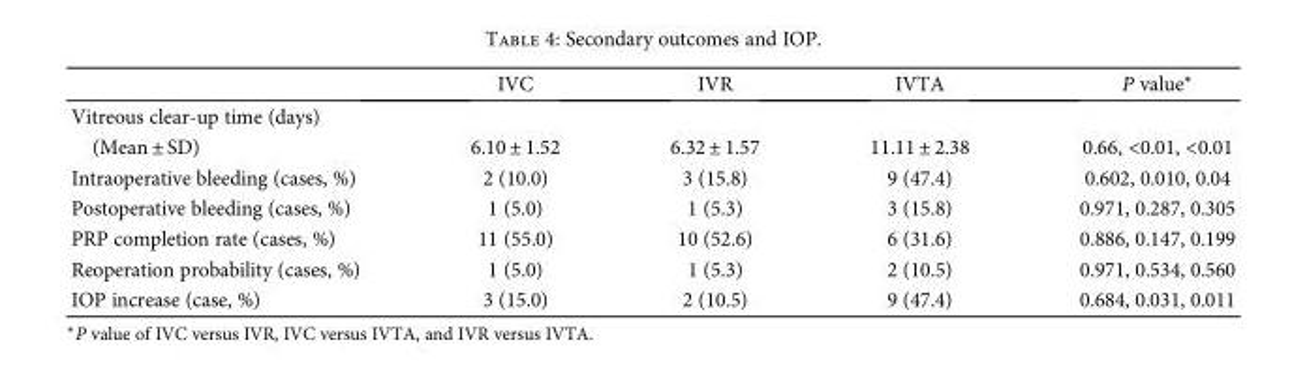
<table><thead><tr><td></td><td>IVC</td><td>IVR</td><td>IVTA</td><td>P value∗</td></tr></thead><tbody><tr><td colspan="5">Vitreous clear-up time (days)</td></tr><tr><td>(Mean ± SD)</td><td>6.10 ± 1.52</td><td>6.32 ± 1.57</td><td>11.11 ± 2.38</td><td>0.66, &lt;0.01, &lt;0.01</td></tr><tr><td>Intraoperative bleeding (cases, %)</td><td>2 (10.0)</td><td>3 (15.8)</td><td>9 (47.4)</td><td>0.602, 0.010, 0.04</td></tr><tr><td>Postoperative bleeding (cases, %)</td><td>1 (5.0)</td><td>1 (5.3)</td><td>3 (15.8)</td><td>0.971, 0.287, 0.305</td></tr><tr><td>PRP completion rate (cases, %)</td><td>11 (55.0)</td><td>10 (52.6)</td><td>6 (31.6)</td><td>0.886, 0.147, 0.199</td></tr><tr><td>Reoperation probability (cases, %)</td><td>1 (5.0)</td><td>1 (5.3)</td><td>2 (10.5)</td><td>0.971, 0.534, 0.560</td></tr><tr><td>IOP increase (case, %)</td><td>3 (15.0)</td><td>2 (10.5)</td><td>9 (47.4)</td><td>0.684, 0.031, 0.011</td></tr></tbody></table>